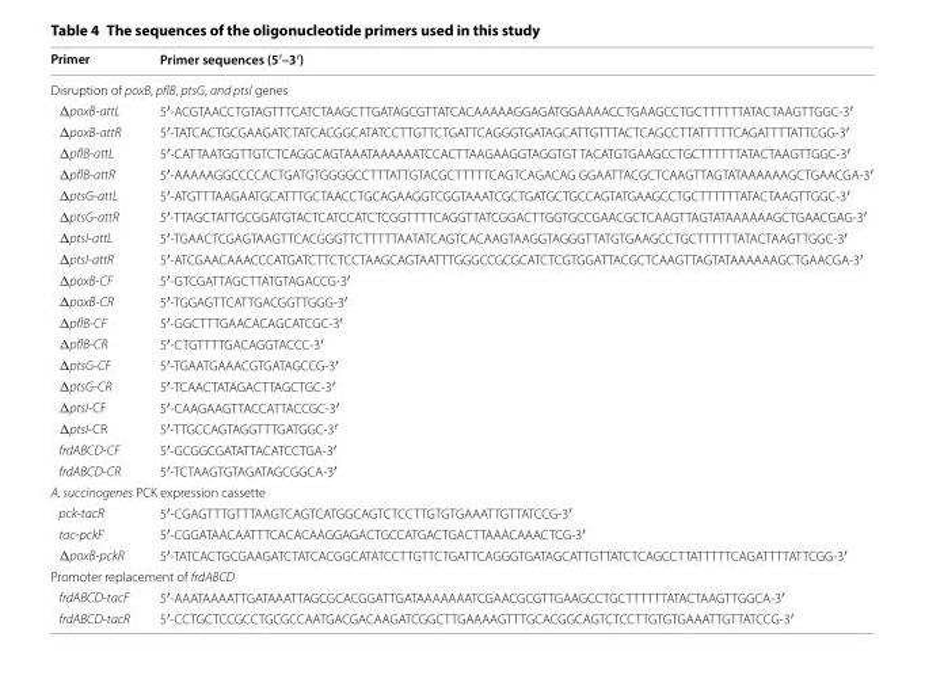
<table><thead><tr><td>Primer</td><td>Primer sequences (5′–3′)</td></tr></thead><tbody><tr><td colspan="2">Disruption of poxB, pflB, ptsG, and ptsI genes</td></tr><tr><td>ΔpoxB-attL</td><td>5′-ACGTAACCTGTAGTTTCATCTAAGCTTGATAGCGTTATCACAAAAAGGAGATGGAAAACCTGAAGCCTGCTTTTTTATACTAAGTTGGC-3′</td></tr><tr><td>ΔpoxB-attR</td><td>5′-TATCACTGCGAAGATCTATCACGGCATATCCTTGTTCTGATTCAGGGTGATAGCATTGTTTACTCAGCCTTATTTTTCAGATTTTATTCGG-3′</td></tr><tr><td>ΔpflB-attL</td><td>5′-CATTAATGGTTGTCTCAGGCAGTAAATAAAAAATCCACTTAAGAAGGTAGGTGT TACATGTGAAGCCTGCTTTTTTATACTAAGTTGGC-3′</td></tr><tr><td>ΔpflB-attR</td><td>5′-AAAAAGGCCCCACTGATGTGGGGCCTTTATTGTACGCTTTTTCAGTCAGACAG GGAATTACGCTCAAGTTAGTATAAAAAAGCTGAACGA-3′</td></tr><tr><td>ΔptsG-attL</td><td>5′-ATGTTTAAGAATGCATTTGCTAACCTGCAGAAGGTCGGTAAATCGCTGATGCTGCCAGTATGAAGCCTGCTTTTTTATACTAAGTTGGC-3′</td></tr><tr><td>ΔptsG-attR</td><td>5′-TTAGCTATTGCGGATGTACTCATCCATCTCGGTTTTCAGGTTATCGGACTTGGTGCCGAACGCTCAAGTTAGTATAAAAAAGCTGAACGAG-3′</td></tr><tr><td>ΔptsI-attL</td><td>5′-TGAACTCGAGTAAGTTCACGGGTTCTTTTTAATATCAGTCACAAGTAAGGTAGGGTTATGTGAAGCCTGCTTTTTTATACTAAGTTGGC-3′</td></tr><tr><td>ΔptsI-attR</td><td>5′-ATCGAACAAACCCATGATCTTCTCCTAAGCAGTAATTTGGGCCGCGCATCTCGTGGATTACGCTCAAGTTAGTATAAAAAAGCTGAACGA-3′</td></tr><tr><td>ΔpoxB-CF</td><td>5′-GTCGATTAGCTTATGTAGACCG-3′</td></tr><tr><td>ΔpoxB-CR</td><td>5′-TGGAGTTCATTGACGGTTGGG-3′</td></tr><tr><td>ΔpflB-CF</td><td>5′-GGCTTTGAACACAGCATCGC-3′</td></tr><tr><td>ΔpflB-CR</td><td>5′-CTGTTTTGACAGGTACCC-3′</td></tr><tr><td>ΔptsG-CF</td><td>5′-TGAATGAAACGTGATAGCCG-3′</td></tr><tr><td>ΔptsG-CR</td><td>5′-TCAACTATAGACTTAGCTGC-3′</td></tr><tr><td>ΔptsI-CF</td><td>5′-CAAGAAGTTACCATTACCGC-3′</td></tr><tr><td>ΔptsI-CR</td><td>5′-TTGCCAGTAGGTTTGATGGC-3′</td></tr><tr><td>frdABCD-CF</td><td>5′-GCGGCGATATTACATCCTGA-3′</td></tr><tr><td>frdABCD-CR</td><td>5′-TCTAAGTGTAGATAGCGGCA-3′</td></tr><tr><td colspan="2">A. succinogenes PCK expression cassette</td></tr><tr><td>pck-tacR</td><td>5′-CGAGTTTGTTTAAGTCAGTCATGGCAGTCTCCTTGTGTGAAATTGTTATCCG-3′</td></tr><tr><td>tac-pckF</td><td>5′-CGGATAACAATTTCACACAAGGAGACTGCCATGACTGACTTAAACAAACTCG-3′</td></tr><tr><td>ΔpoxB-pckR</td><td>5′-TATCACTGCGAAGATCTATCACGGCATATCCTTGTTCTGATTCAGGGTGATAGCATTGTTATCTCAGCCTTATTTTTCAGATTTTATTCGG-3′</td></tr><tr><td colspan="2">Promoter replacement of frdABCD</td></tr><tr><td>frdABCD-tacF</td><td>5′-AAATAAAATTGATAAATTAGCGCACGGATTGATAAAAAAATCGAACGCGTTGAAGCCTGCTTTTTTATACTAAGTTGGCA-3′</td></tr><tr><td>frdABCD-tacR</td><td>5′-CCTGCTCCGCCTGCGCCAATGACGACAAGATCGGCTTGAAAAGTTTGCACGGCAGTCTCCTTGTGTGAAATTGTTATCCG-3′</td></tr></tbody></table>